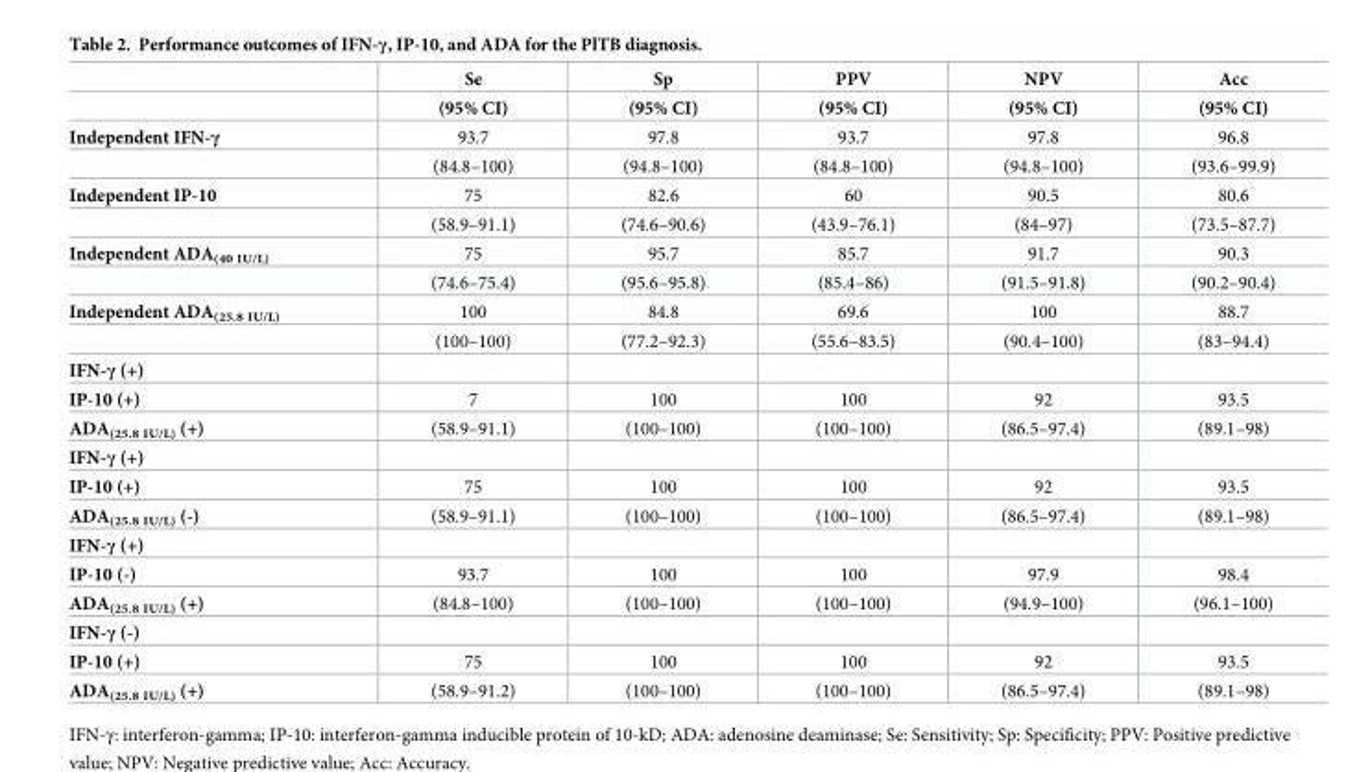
<table><thead><tr><td rowspan="2"></td><td rowspan="2">Se (95% CI)</td><td rowspan="2">Sp (95% CI)</td><td rowspan="2">PPV (95% CI)</td><td rowspan="2">NPV (95% CI)</td><td rowspan="2">Acc (95% CI)</td></tr><tr></tr></thead><tbody><tr><td rowspan="2">Independent IFN-γ</td><td>93.7</td><td>97.8</td><td>93.7</td><td>97.8</td><td>96.8</td></tr><tr><td>(84.8–100)</td><td>(94.8–100)</td><td>(84.8–100)</td><td>(94.8–100)</td><td>(93.6–99.9)</td></tr><tr><td rowspan="2">Independent IP-10</td><td>75</td><td>82.6</td><td>60</td><td>90.5</td><td>80.6</td></tr><tr><td>(58.9–91.1)</td><td>(74.6–90.6)</td><td>(43.9–76.1)</td><td>(84–97)</td><td>(73.5–87.7)</td></tr><tr><td rowspan="2">Independent ADA<sub>(40 IU/L)</sub></td><td>75</td><td>95.7</td><td>85.7</td><td>91.7</td><td>90.3</td></tr><tr><td>(74.6–75.4)</td><td>(95.6–95.8)</td><td>(85.4–86)</td><td>(91.5–91.8)</td><td>(90.2–90.4)</td></tr><tr><td rowspan="2">Independent ADA<sub>(25.8 IU/L)</sub></td><td>100</td><td>84.8</td><td>69.6</td><td>100</td><td>88.7</td></tr><tr><td>(100–100)</td><td>(77.2–92.3)</td><td>(55.6–83.5)</td><td>(90.4–100)</td><td>(83–94.4)</td></tr><tr><td colspan="6">IFN-γ (+)</td></tr><tr><td>IP-10 (+)</td><td>7</td><td>100</td><td>100</td><td>92</td><td>93.5</td></tr><tr><td>ADA<sub>(25.8 IU/L)</sub> (+)</td><td>(58.9–91.1)</td><td>(100–100)</td><td>(100–100)</td><td>(86.5–97.4)</td><td>(89.1–98)</td></tr><tr><td colspan="6">IFN-γ (+)</td></tr><tr><td>IP-10 (+)</td><td>75</td><td>100</td><td>100</td><td>92</td><td>93.5</td></tr><tr><td>ADA<sub>(25.8 IU/L)</sub> (-)</td><td>(58.9–91.1)</td><td>(100–100)</td><td>(100–100)</td><td>(86.5–97.4)</td><td>(89.1–98)</td></tr><tr><td colspan="6">IFN-γ (+)</td></tr><tr><td>IP-10 (-)</td><td>93.7</td><td>100</td><td>100</td><td>97.9</td><td>98.4</td></tr><tr><td>ADA<sub>(25.8 IU/L)</sub> (+)</td><td>(84.8–100)</td><td>(100–100)</td><td>(100–100)</td><td>(94.9–100)</td><td>(96.1–100)</td></tr><tr><td colspan="6">IFN-γ (-)</td></tr><tr><td>IP-10 (+)</td><td>75</td><td>100</td><td>100</td><td>92</td><td>93.5</td></tr><tr><td>ADA<sub>(25.8 IU/L)</sub> (+)</td><td>(58.9–91.2)</td><td>(100–100)</td><td>(100–100)</td><td>(86.5–97.4)</td><td>(89.1–98)</td></tr></tbody></table>